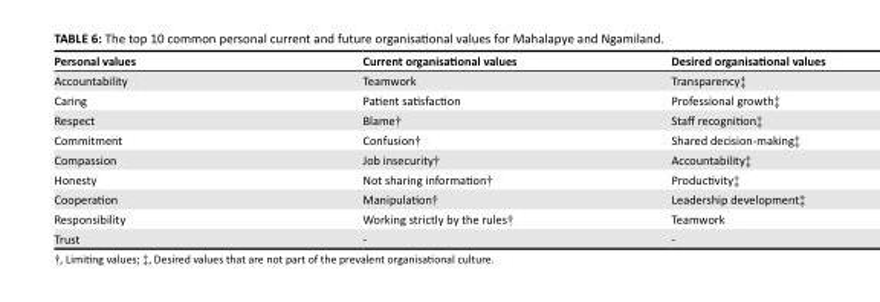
<table><thead><tr><td>Personal values</td><td>Current organisational values</td><td>Desired organisational values</td></tr></thead><tbody><tr><td>Accountability</td><td>Teamwork</td><td>Transparency‡</td></tr><tr><td>Caring</td><td>Patient satisfaction</td><td>Professional growth‡</td></tr><tr><td>Respect</td><td>Blame†</td><td>Staff recognition‡</td></tr><tr><td>Commitment</td><td>Confusion†</td><td>Shared decision-making‡</td></tr><tr><td>Compassion</td><td>Job insecurity†</td><td>Accountability‡</td></tr><tr><td>Honesty</td><td>Not sharing information†</td><td>Productivity‡</td></tr><tr><td>Cooperation</td><td>Manipulation†</td><td>Leadership development‡</td></tr><tr><td>Responsibility</td><td>Working strictly by the rules†</td><td>Teamwork</td></tr><tr><td>Trust</td><td>-</td><td>-</td></tr></tbody></table>